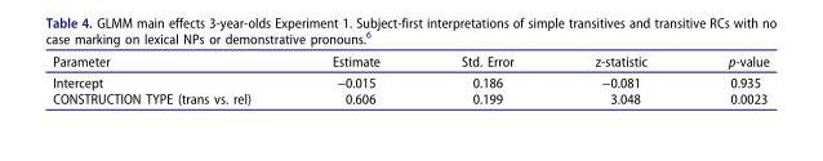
<table><thead><tr><td>Parameter</td><td>Estimate</td><td>Std. Error</td><td>z-statistic</td><td>p-value</td></tr></thead><tbody><tr><td>Intercept</td><td>−0.015</td><td>0.186</td><td>−0.081</td><td>0.935</td></tr><tr><td>CONSTRUCTION TYPE (trans vs. rel)</td><td>0.606</td><td>0.199</td><td>3.048</td><td>0.0023</td></tr></tbody></table>